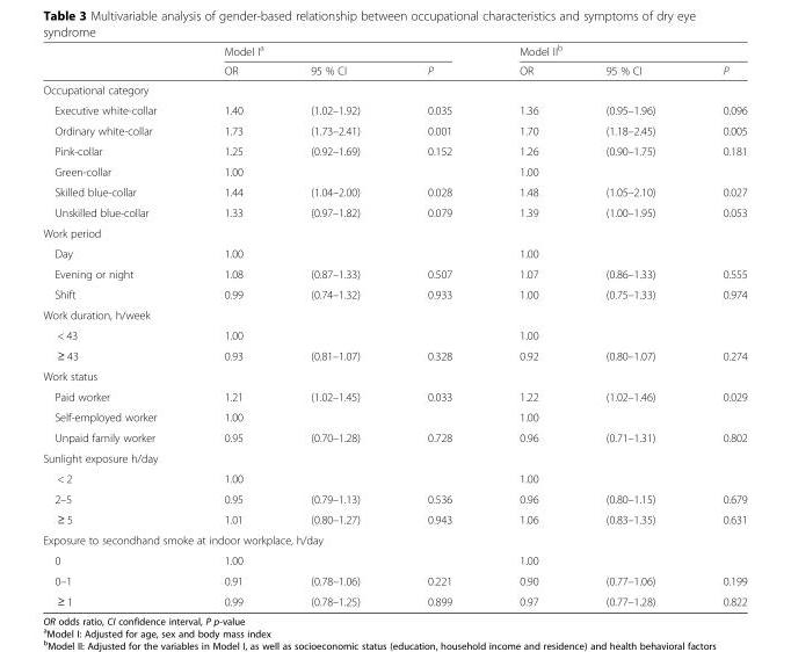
<table><thead><tr><td rowspan="2"></td><td colspan="3">Model I<sup>a</sup></td><td colspan="3">Model II<sup>b</sup></td></tr><tr><td>OR</td><td>95 % CI</td><td>P</td><td>OR</td><td>95 % CI</td><td>P</td></tr></thead><tbody><tr><td colspan="7">Occupational category</td></tr><tr><td>Executive white-collar</td><td>1.40</td><td>(1.02–1.92)</td><td>0.035</td><td>1.36</td><td>(0.95–1.96)</td><td>0.096</td></tr><tr><td>Ordinary white-collar</td><td>1.73</td><td>(1.73–2.41)</td><td>0.001</td><td>1.70</td><td>(1.18–2.45)</td><td>0.005</td></tr><tr><td>Pink-collar</td><td>1.25</td><td>(0.92–1.69)</td><td>0.152</td><td>1.26</td><td>(0.90–1.75)</td><td>0.181</td></tr><tr><td>Green-collar</td><td>1.00</td><td></td><td></td><td>1.00</td><td></td><td></td></tr><tr><td>Skilled blue-collar</td><td>1.44</td><td>(1.04–2.00)</td><td>0.028</td><td>1.48</td><td>(1.05–2.10)</td><td>0.027</td></tr><tr><td>Unskilled blue-collar</td><td>1.33</td><td>(0.97–1.82)</td><td>0.079</td><td>1.39</td><td>(1.00–1.95)</td><td>0.053</td></tr><tr><td colspan="7">Work period</td></tr><tr><td>Day</td><td>1.00</td><td></td><td></td><td>1.00</td><td></td><td></td></tr><tr><td>Evening or night</td><td>1.08</td><td>(0.87–1.33)</td><td>0.507</td><td>1.07</td><td>(0.86–1.33)</td><td>0.555</td></tr><tr><td>Shift</td><td>0.99</td><td>(0.74–1.32)</td><td>0.933</td><td>1.00</td><td>(0.75–1.33)</td><td>0.974</td></tr><tr><td colspan="7">Work duration, h/week</td></tr><tr><td>&lt; 43</td><td>1.00</td><td></td><td></td><td>1.00</td><td></td><td></td></tr><tr><td>≥ 43</td><td>0.93</td><td>(0.81–1.07)</td><td>0.328</td><td>0.92</td><td>(0.80–1.07)</td><td>0.274</td></tr><tr><td colspan="7">Work status</td></tr><tr><td>Paid worker</td><td>1.21</td><td>(1.02–1.45)</td><td>0.033</td><td>1.22</td><td>(1.02–1.46)</td><td>0.029</td></tr><tr><td>Self-employed worker</td><td>1.00</td><td></td><td></td><td>1.00</td><td></td><td></td></tr><tr><td>Unpaid family worker</td><td>0.95</td><td>(0.70–1.28)</td><td>0.728</td><td>0.96</td><td>(0.71–1.31)</td><td>0.802</td></tr><tr><td colspan="7">Sunlight exposure h/day</td></tr><tr><td>&lt; 2</td><td>1.00</td><td></td><td></td><td>1.00</td><td></td><td></td></tr><tr><td>2–5</td><td>0.95</td><td>(0.79–1.13)</td><td>0.536</td><td>0.96</td><td>(0.80–1.15)</td><td>0.679</td></tr><tr><td>≥ 5</td><td>1.01</td><td>(0.80–1.27)</td><td>0.943</td><td>1.06</td><td>(0.83–1.35)</td><td>0.631</td></tr><tr><td colspan="7">Exposure to secondhand smoke at indoor workplace, h/day</td></tr><tr><td>0</td><td>1.00</td><td></td><td></td><td>1.00</td><td></td><td></td></tr><tr><td>0–1</td><td>0.91</td><td>(0.78–1.06)</td><td>0.221</td><td>0.90</td><td>(0.77–1.06)</td><td>0.199</td></tr><tr><td>≥ 1</td><td>0.99</td><td>(0.78–1.25)</td><td>0.899</td><td>0.97</td><td>(0.77–1.28)</td><td>0.822</td></tr></tbody></table>